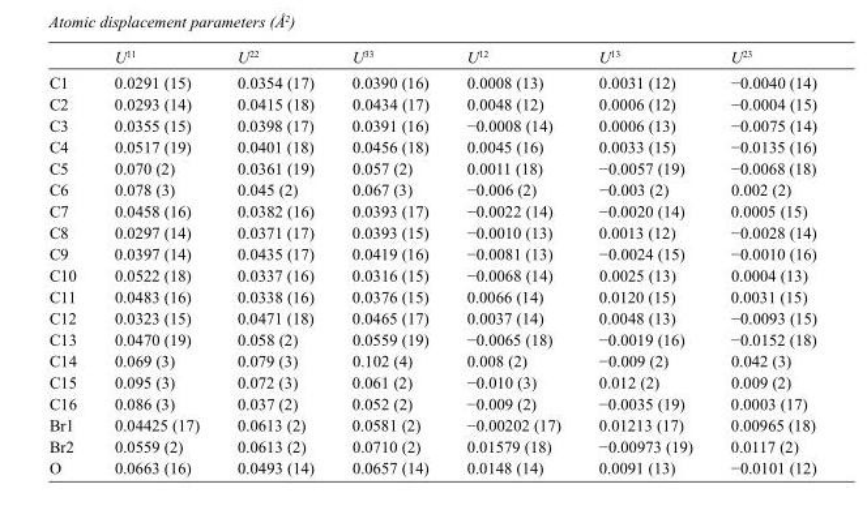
<table><thead><tr><td></td><td>U<sup>11</sup></td><td>U<sup>22</sup></td><td>U<sup>33</sup></td><td>U<sup>12</sup></td><td>U<sup>13</sup></td><td>U<sup>23</sup></td></tr></thead><tbody><tr><td>C1</td><td>0.0291 (15)</td><td>0.0354 (17)</td><td>0.0390 (16)</td><td>0.0008 (13)</td><td>0.0031 (12)</td><td>−0.0040 (14)</td></tr><tr><td>C2</td><td>0.0293 (14)</td><td>0.0415 (18)</td><td>0.0434 (17)</td><td>0.0048 (12)</td><td>0.0006 (12)</td><td>−0.0004 (15)</td></tr><tr><td>C3</td><td>0.0355 (15)</td><td>0.0398 (17)</td><td>0.0391 (16)</td><td>−0.0008 (14)</td><td>0.0006 (13)</td><td>−0.0075 (14)</td></tr><tr><td>C4</td><td>0.0517 (19)</td><td>0.0401 (18)</td><td>0.0456 (18)</td><td>0.0045 (16)</td><td>0.0033 (15)</td><td>−0.0135 (16)</td></tr><tr><td>C5</td><td>0.070 (2)</td><td>0.0361 (19)</td><td>0.057 (2)</td><td>0.0011 (18)</td><td>−0.0057 (19)</td><td>−0.0068 (18)</td></tr><tr><td>C6</td><td>0.078 (3)</td><td>0.045 (2)</td><td>0.067 (3)</td><td>−0.006 (2)</td><td>−0.003 (2)</td><td>0.002 (2)</td></tr><tr><td>C7</td><td>0.0458 (16)</td><td>0.0382 (16)</td><td>0.0393 (17)</td><td>−0.0022 (14)</td><td>−0.0020 (14)</td><td>0.0005 (15)</td></tr><tr><td>C8</td><td>0.0297 (14)</td><td>0.0371 (17)</td><td>0.0393 (15)</td><td>−0.0010 (13)</td><td>0.0013 (12)</td><td>−0.0028 (14)</td></tr><tr><td>C9</td><td>0.0397 (14)</td><td>0.0435 (17)</td><td>0.0419 (16)</td><td>−0.0081 (13)</td><td>−0.0024 (15)</td><td>−0.0010 (16)</td></tr><tr><td>C10</td><td>0.0522 (18)</td><td>0.0337 (16)</td><td>0.0316 (15)</td><td>−0.0068 (14)</td><td>0.0025 (13)</td><td>0.0004 (13)</td></tr><tr><td>C11</td><td>0.0483 (16)</td><td>0.0338 (16)</td><td>0.0376 (15)</td><td>0.0066 (14)</td><td>0.0120 (15)</td><td>0.0031 (15)</td></tr><tr><td>C12</td><td>0.0323 (15)</td><td>0.0471 (18)</td><td>0.0465 (17)</td><td>0.0037 (14)</td><td>0.0048 (13)</td><td>−0.0093 (15)</td></tr><tr><td>C13</td><td>0.0470 (19)</td><td>0.058 (2)</td><td>0.0559 (19)</td><td>−0.0065 (18)</td><td>−0.0019 (16)</td><td>−0.0152 (18)</td></tr><tr><td>C14</td><td>0.069 (3)</td><td>0.079 (3)</td><td>0.102 (4)</td><td>0.008 (2)</td><td>−0.009 (2)</td><td>0.042 (3)</td></tr><tr><td>C15</td><td>0.095 (3)</td><td>0.072 (3)</td><td>0.061 (2)</td><td>−0.010 (3)</td><td>0.012 (2)</td><td>0.009 (2)</td></tr><tr><td>C16</td><td>0.086 (3)</td><td>0.037 (2)</td><td>0.052 (2)</td><td>−0.009 (2)</td><td>−0.0035 (19)</td><td>0.0003 (17)</td></tr><tr><td>Br1</td><td>0.04425 (17)</td><td>0.0613 (2)</td><td>0.0581 (2)</td><td>−0.00202 (17)</td><td>0.01213 (17)</td><td>0.00965 (18)</td></tr><tr><td>Br2</td><td>0.0559 (2)</td><td>0.0613 (2)</td><td>0.0710 (2)</td><td>0.01579 (18)</td><td>−0.00973 (19)</td><td>0.0117 (2)</td></tr><tr><td>O</td><td>0.0663 (16)</td><td>0.0493 (14)</td><td>0.0657 (14)</td><td>0.0148 (14)</td><td>0.0091 (13)</td><td>−0.0101 (12)</td></tr></tbody></table>